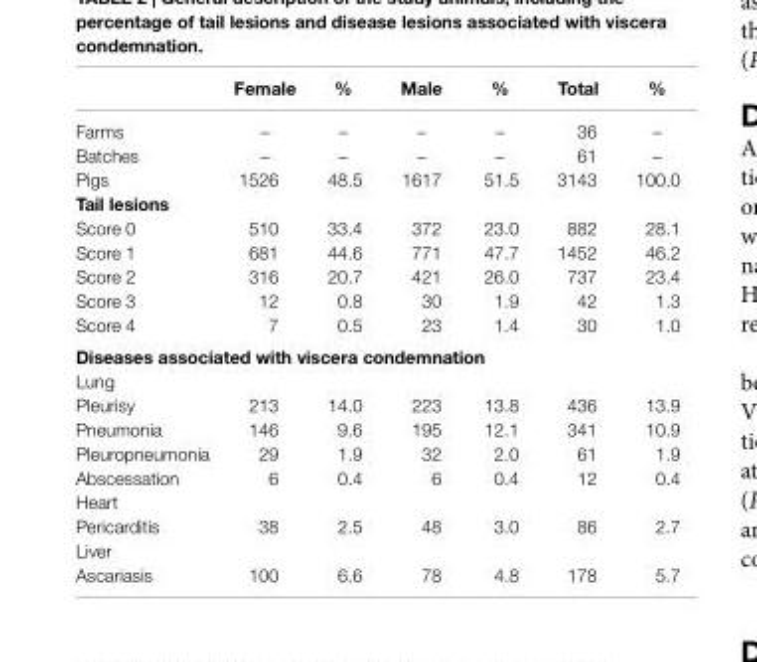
<table><thead><tr><td></td><td>Female</td><td>%</td><td>Male</td><td>%</td><td>Total</td><td>%</td></tr></thead><tbody><tr><td>Farms</td><td>–</td><td>–</td><td>–</td><td>–</td><td>36</td><td>–</td></tr><tr><td>Batches</td><td>–</td><td>–</td><td>–</td><td>–</td><td>61</td><td>–</td></tr><tr><td>Pigs</td><td>1526</td><td>48.5</td><td>1617</td><td>51.5</td><td>3143</td><td>100.0</td></tr><tr><td colspan="7">Tail lesions</td></tr><tr><td>Score 0</td><td>510</td><td>33.4</td><td>372</td><td>23.0</td><td>882</td><td>28.1</td></tr><tr><td>Score 1</td><td>681</td><td>44.6</td><td>771</td><td>47.7</td><td>1452</td><td>46.2</td></tr><tr><td>Score 2</td><td>316</td><td>20.7</td><td>421</td><td>26.0</td><td>737</td><td>23.4</td></tr><tr><td>Score 3</td><td>12</td><td>0.8</td><td>30</td><td>1.9</td><td>42</td><td>1.3</td></tr><tr><td>Score 4</td><td>7</td><td>0.5</td><td>23</td><td>1.4</td><td>30</td><td>1.0</td></tr><tr><td colspan="7">Diseases associated with viscera condemnation</td></tr><tr><td colspan="7">Lung</td></tr><tr><td>Pleurisy</td><td>213</td><td>14.0</td><td>223</td><td>13.8</td><td>436</td><td>13.9</td></tr><tr><td>Pneumonia</td><td>146</td><td>9.6</td><td>195</td><td>12.1</td><td>341</td><td>10.9</td></tr><tr><td>Pleuropneumonia</td><td>29</td><td>1.9</td><td>32</td><td>2.0</td><td>61</td><td>1.9</td></tr><tr><td>Abscessation</td><td>6</td><td>0.4</td><td>6</td><td>0.4</td><td>12</td><td>0.4</td></tr><tr><td colspan="7">Heart</td></tr><tr><td>Pericarditis</td><td>38</td><td>2.5</td><td>48</td><td>3.0</td><td>86</td><td>2.7</td></tr><tr><td colspan="7">Liver</td></tr><tr><td>Ascariasis</td><td>100</td><td>6.6</td><td>78</td><td>4.8</td><td>178</td><td>5.7</td></tr></tbody></table>